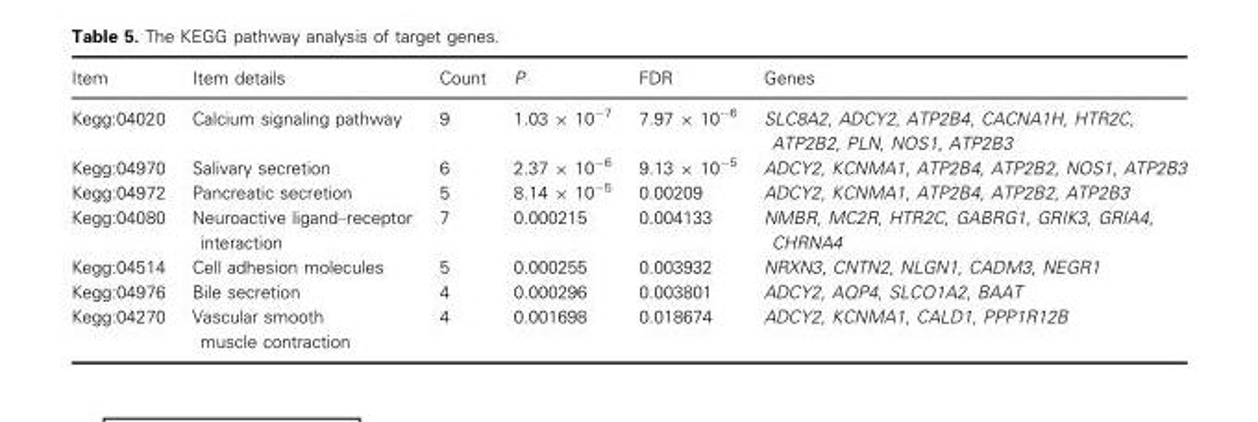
<table><thead><tr><td>Item</td><td>Item details</td><td>Count</td><td>P</td><td>FDR</td><td>Genes</td></tr></thead><tbody><tr><td>Kegg:04020</td><td>Calcium signaling pathway</td><td>9</td><td>1.03 × 10<sup>−7</sup></td><td>7.97 × 10<sup>−6</sup></td><td>SLC8A2, ADCY2, ATP2B4, CACNA1H, HTR2C, ATP2B2, PLN, NOS1, ATP2B3</td></tr><tr><td>Kegg:04970</td><td>Salivary secretion</td><td>6</td><td>2.37 × 10<sup>−6</sup></td><td>9.13 × 10<sup>−5</sup></td><td>ADCY2, KCNMA1, ATP2B4, ATP2B2, NOS1, ATP2B3</td></tr><tr><td>Kegg:04972</td><td>Pancreatic secretion</td><td>5</td><td>8.14 × 10<sup>−5</sup></td><td>0.00209</td><td>ADCY2, KCNMA1, ATP2B4, ATP2B2, ATP2B3</td></tr><tr><td>Kegg:04080</td><td>Neuroactive ligand–receptor interaction</td><td>7</td><td>0.000215</td><td>0.004133</td><td>NMBR, MC2R, HTR2C, GABRG1, GRIK3, GRIA4, CHRNA4</td></tr><tr><td>Kegg:04514</td><td>Cell adhesion molecules</td><td>5</td><td>0.000255</td><td>0.003932</td><td>NRXN3, CNTN2, NLGN1, CADM3, NEGR1</td></tr><tr><td>Kegg:04976</td><td>Bile secretion</td><td>4</td><td>0.000296</td><td>0.003801</td><td>ADCY2, AQP4, SLCO1A2, BAAT</td></tr><tr><td>Kegg:04270</td><td>Vascular smooth muscle contraction</td><td>4</td><td>0.001698</td><td>0.018674</td><td>ADCY2, KCNMA1, CALD1, PPP1R12B</td></tr></tbody></table>